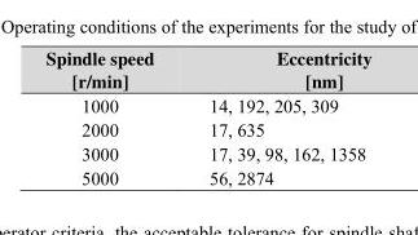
<table><thead><tr><td>Spindle speed [r/min]</td><td>Eccentricity [nm]</td></tr></thead><tbody><tr><td>1000</td><td>14, 192, 205, 309</td></tr><tr><td>2000</td><td>17, 635</td></tr><tr><td>3000</td><td>17, 39, 98, 162, 1358</td></tr><tr><td>5000</td><td>56, 2874</td></tr></tbody></table>